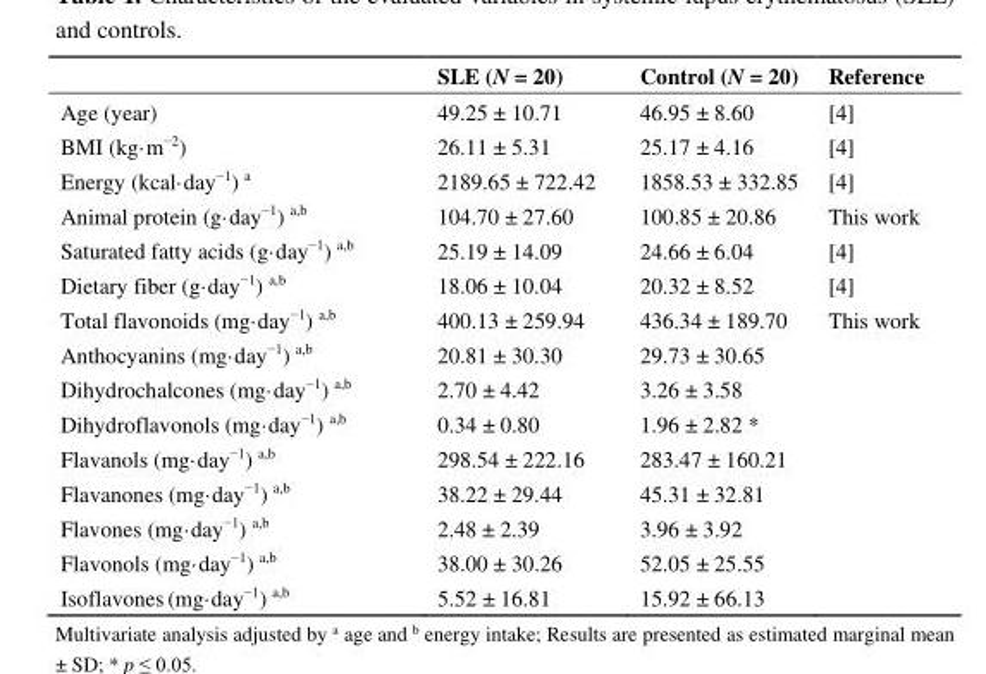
<table><thead><tr><td></td><td>SLE (N = 20)</td><td>Control (N = 20)</td><td>Reference</td></tr></thead><tbody><tr><td>Age (year)</td><td>49.25 ± 10.71</td><td>46.95 ± 8.60</td><td>[4]</td></tr><tr><td>BMI (kg·m<sup>−2</sup>)</td><td>26.11 ± 5.31</td><td>25.17 ± 4.16</td><td>[4]</td></tr><tr><td>Energy (kcal·day<sup>−1</sup>) <sup>a</sup></td><td>2189.65 ± 722.42</td><td>1858.53 ± 332.85</td><td>[4]</td></tr><tr><td>Animal protein (g·day<sup>−1</sup>) <sup>a,b</sup></td><td>104.70 ± 27.60</td><td>100.85 ± 20.86</td><td>This work</td></tr><tr><td>Saturated fatty acids (g·day<sup>−1</sup>) <sup>a,b</sup></td><td>25.19 ± 14.09</td><td>24.66 ± 6.04</td><td>[4]</td></tr><tr><td>Dietary fiber (g·day<sup>−1</sup>) <sup>a,b</sup></td><td>18.06 ± 10.04</td><td>20.32 ± 8.52</td><td>[4]</td></tr><tr><td>Total flavonoids (mg·day<sup>−1</sup>) <sup>a,b</sup></td><td>400.13 ± 259.94</td><td>436.34 ± 189.70</td><td>This work</td></tr><tr><td>Anthocyanins (mg·day<sup>−1</sup>) <sup>a,b</sup></td><td>20.81 ± 30.30</td><td>29.73 ± 30.65</td><td></td></tr><tr><td>Dihydrochalcones (mg·day<sup>−1</sup>) <sup>a,b</sup></td><td>2.70 ± 4.42</td><td>3.26 ± 3.58</td><td></td></tr><tr><td>Dihydroflavonols (mg·day<sup>−1</sup>) <sup>a,b</sup></td><td>0.34 ± 0.80</td><td>1.96 ± 2.82 *</td><td></td></tr><tr><td>Flavanols (mg·day<sup>−1</sup>) <sup>a,b</sup></td><td>298.54 ± 222.16</td><td>283.47 ± 160.21</td><td></td></tr><tr><td>Flavanones (mg·day<sup>−1</sup>) <sup>a,b</sup></td><td>38.22 ± 29.44</td><td>45.31 ± 32.81</td><td></td></tr><tr><td>Flavones (mg·day<sup>−1</sup>) <sup>a,b</sup></td><td>2.48 ± 2.39</td><td>3.96 ± 3.92</td><td></td></tr><tr><td>Flavonols (mg·day<sup>−1</sup>) <sup>a,b</sup></td><td>38.00 ± 30.26</td><td>52.05 ± 25.55</td><td></td></tr><tr><td>Isoflavones (mg·day<sup>−1</sup>) <sup>a,b</sup></td><td>5.52 ± 16.81</td><td>15.92 ± 66.13</td><td></td></tr></tbody></table>